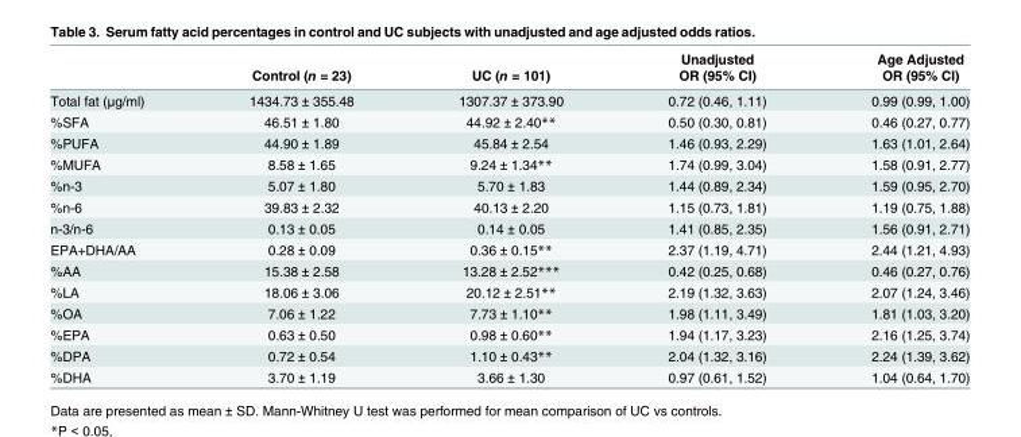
<table><thead><tr><td rowspan="2"></td><td rowspan="2">Control (n = 23)</td><td rowspan="2">UC (n = 101)</td><td rowspan="2">Unadjusted OR (95% CI)</td><td rowspan="2">Age Adjusted OR (95% CI)</td></tr><tr></tr></thead><tbody><tr><td>Total fat (μg/ml)</td><td>1434.73 ± 355.48</td><td>1307.37 ± 373.90</td><td>0.72 (0.46, 1.11)</td><td>0.99 (0.99, 1.00)</td></tr><tr><td>%SFA</td><td>46.51 ± 1.80</td><td>44.92 ± 2.40**</td><td>0.50 (0.30, 0.81)</td><td>0.46 (0.27, 0.77)</td></tr><tr><td>%PUFA</td><td>44.90 ± 1.89</td><td>45.84 ± 2.54</td><td>1.46 (0.93, 2.29)</td><td>1.63 (1.01, 2.64)</td></tr><tr><td>%MUFA</td><td>8.58 ± 1.65</td><td>9.24 ± 1.34**</td><td>1.74 (0.99, 3.04)</td><td>1.58 (0.91, 2.77)</td></tr><tr><td>%n-3</td><td>5.07 ± 1.80</td><td>5.70 ± 1.83</td><td>1.44 (0.89, 2.34)</td><td>1.59 (0.95, 2.70)</td></tr><tr><td>%n-6</td><td>39.83 ± 2.32</td><td>40.13 ± 2.20</td><td>1.15 (0.73, 1.81)</td><td>1.19 (0.75, 1.88)</td></tr><tr><td>n-3/n-6</td><td>0.13 ± 0.05</td><td>0.14 ± 0.05</td><td>1.41 (0.85, 2.35)</td><td>1.56 (0.91, 2.71)</td></tr><tr><td>EPA+DHA/AA</td><td>0.28 ± 0.09</td><td>0.36 ± 0.15**</td><td>2.37 (1.19, 4.71)</td><td>2.44 (1.21, 4.93)</td></tr><tr><td>%AA</td><td>15.38 ± 2.58</td><td>13.28 ± 2.52***</td><td>0.42 (0.25, 0.68)</td><td>0.46 (0.27, 0.76)</td></tr><tr><td>%LA</td><td>18.06 ± 3.06</td><td>20.12 ± 2.51**</td><td>2.19 (1.32, 3.63)</td><td>2.07 (1.24, 3.46)</td></tr><tr><td>%OA</td><td>7.06 ± 1.22</td><td>7.73 ± 1.10**</td><td>1.98 (1.11, 3.49)</td><td>1.81 (1.03, 3.20)</td></tr><tr><td>%EPA</td><td>0.63 ± 0.50</td><td>0.98 ± 0.60**</td><td>1.94 (1.17, 3.23)</td><td>2.16 (1.25, 3.74)</td></tr><tr><td>%DPA</td><td>0.72 ± 0.54</td><td>1.10 ± 0.43**</td><td>2.04 (1.32, 3.16)</td><td>2.24 (1.39, 3.62)</td></tr><tr><td>%DHA</td><td>3.70 ± 1.19</td><td>3.66 ± 1.30</td><td>0.97 (0.61, 1.52)</td><td>1.04 (0.64, 1.70)</td></tr></tbody></table>